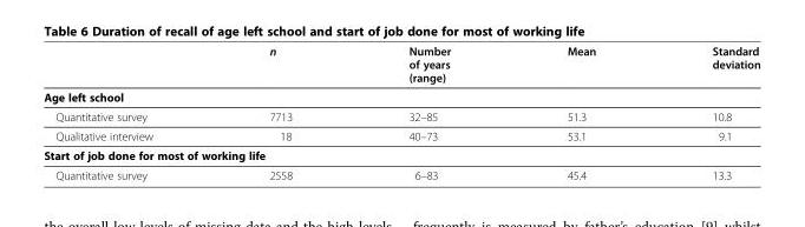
<table><thead><tr><td></td><td>n</td><td>Number of years (range)</td><td>Mean</td><td>Standard deviation</td></tr></thead><tbody><tr><td colspan="5">Age left school</td></tr><tr><td>Quantitative survey</td><td>7713</td><td>32–85</td><td>51.3</td><td>10.8</td></tr><tr><td>Qualitative interview</td><td>18</td><td>40–73</td><td>53.1</td><td>9.1</td></tr><tr><td colspan="5">Start of job done for most of working life</td></tr><tr><td>Quantitative survey</td><td>2558</td><td>6–83</td><td>45.4</td><td>13.3</td></tr></tbody></table>